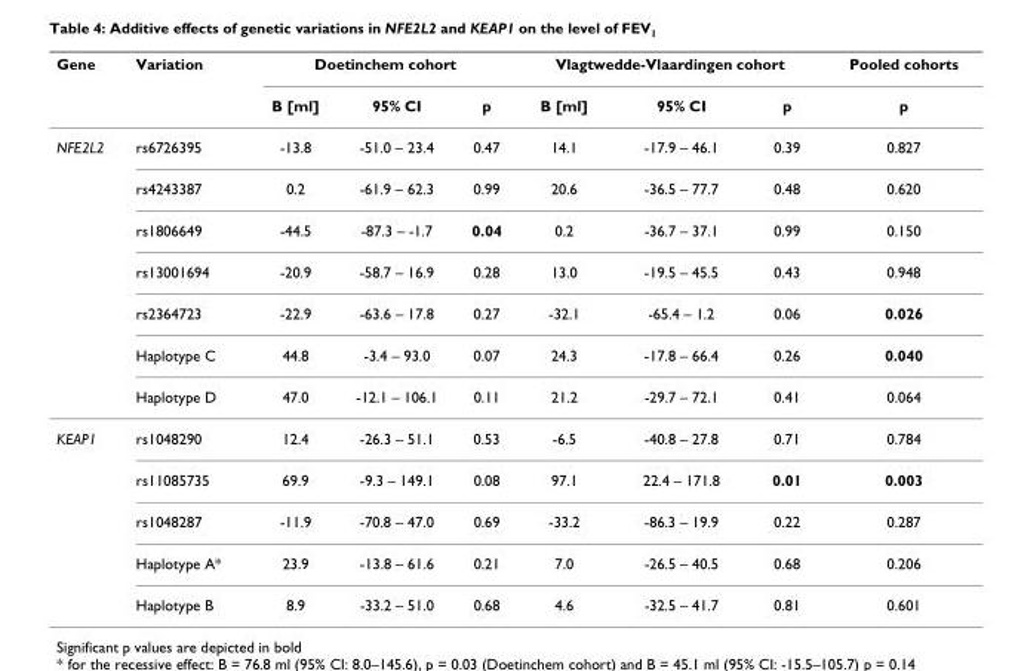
<table><thead><tr><td rowspan="2">Gene</td><td rowspan="2">Variation</td><td colspan="3">Doetinchem cohort</td><td colspan="3">Vlagtwedde-Vlaardingen cohort</td><td rowspan="2">Pooled cohorts p</td></tr><tr><td>B [ml]</td><td>95% CI</td><td>p</td><td>B [ml]</td><td>95% CI</td><td>p</td></tr></thead><tbody><tr><td rowspan="7">NFE2L2</td><td>rs6726395</td><td>-13.8</td><td>-51.0 – 23.4</td><td>0.47</td><td>14.1</td><td>-17.9 – 46.1</td><td>0.39</td><td>0.827</td></tr><tr><td>rs4243387</td><td>0.2</td><td>-61.9 – 62.3</td><td>0.99</td><td>20.6</td><td>-36.5 – 77.7</td><td>0.48</td><td>0.620</td></tr><tr><td>rs1806649</td><td>-44.5</td><td>-87.3 – -1.7</td><td>0.04</td><td>0.2</td><td>-36.7 – 37.1</td><td>0.99</td><td>0.150</td></tr><tr><td>rs13001694</td><td>-20.9</td><td>-58.7 – 16.9</td><td>0.28</td><td>13.0</td><td>-19.5 – 45.5</td><td>0.43</td><td>0.948</td></tr><tr><td>rs2364723</td><td>-22.9</td><td>-63.6 – 17.8</td><td>0.27</td><td>-32.1</td><td>-65.4 – 1.2</td><td>0.06</td><td>0.026</td></tr><tr><td>Haplotype C</td><td>44.8</td><td>-3.4 – 93.0</td><td>0.07</td><td>24.3</td><td>-17.8 – 66.4</td><td>0.26</td><td>0.040</td></tr><tr><td>Haplotype D</td><td>47.0</td><td>-12.1 – 106.1</td><td>0.11</td><td>21.2</td><td>-29.7 – 72.1</td><td>0.41</td><td>0.064</td></tr><tr><td rowspan="5">KEAP1</td><td>rs1048290</td><td>12.4</td><td>-26.3 – 51.1</td><td>0.53</td><td>-6.5</td><td>-40.8 – 27.8</td><td>0.71</td><td>0.784</td></tr><tr><td>rs11085735</td><td>69.9</td><td>-9.3 – 149.1</td><td>0.08</td><td>97.1</td><td>22.4 – 171.8</td><td>0.01</td><td>0.003</td></tr><tr><td>rs1048287</td><td>-11.9</td><td>-70.8 – 47.0</td><td>0.69</td><td>-33.2</td><td>-86.3 – 19.9</td><td>0.22</td><td>0.287</td></tr><tr><td>Haplotype A*</td><td>23.9</td><td>-13.8 – 61.6</td><td>0.21</td><td>7.0</td><td>-26.5 – 40.5</td><td>0.68</td><td>0.206</td></tr><tr><td>Haplotype B</td><td>8.9</td><td>-33.2 – 51.0</td><td>0.68</td><td>4.6</td><td>-32.5 – 41.7</td><td>0.81</td><td>0.601</td></tr></tbody></table>